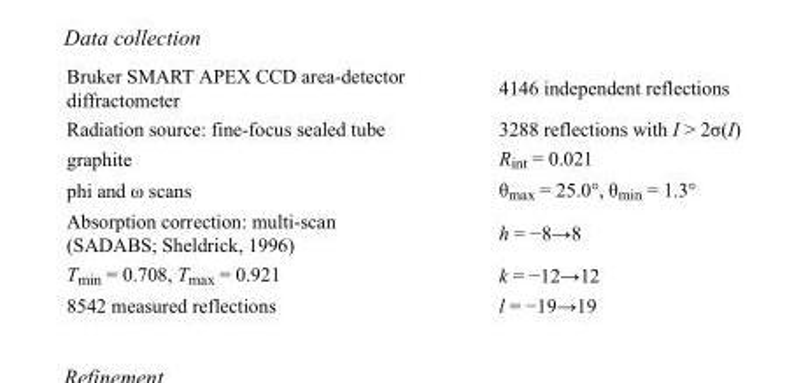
<table><tbody><tr><td>Bruker SMART APEX CCD area-detector diffractometer</td><td>4146 independent reflections</td></tr><tr><td>Radiation source: fine-focus sealed tube</td><td>3288 reflections with I &gt; 2σ(I)</td></tr><tr><td>graphite</td><td>R<sub>int</sub> = 0.021</td></tr><tr><td>phi and ω scans</td><td>θ<sub>max</sub> = 25.0°, θ<sub>min</sub> = 1.3°</td></tr><tr><td>Absorption correction: multi-scan (SADABS; Sheldrick, 1996)</td><td>h = −8→8</td></tr><tr><td>T<sub>min</sub> = 0.708, T<sub>max</sub> = 0.921</td><td>k = −12→12</td></tr><tr><td>8542 measured reflections</td><td>l = −19→19</td></tr></tbody></table>